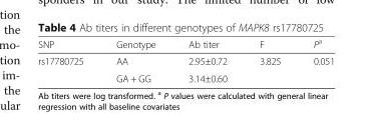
<table><thead><tr><td>SNP</td><td>Genotype</td><td>Ab titer</td><td>F</td><td>P<sup>a</sup></td></tr></thead><tbody><tr><td rowspan="2">rs17780725</td><td>AA</td><td>2.95±0.72</td><td>3.825</td><td>0.051</td></tr><tr><td>GA + GG</td><td>3.14±0.60</td><td></td><td></td></tr></tbody></table>